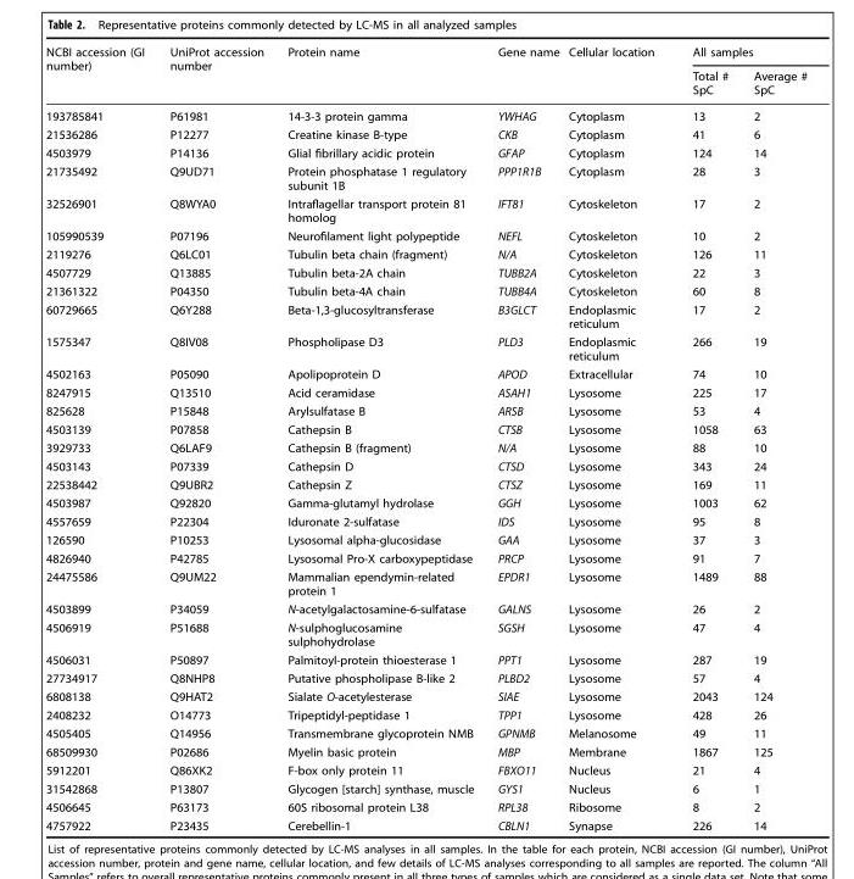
<table><thead><tr><td rowspan="2">NCBI accession (GI number)</td><td rowspan="2">UniProt accession number</td><td rowspan="2">Protein name</td><td rowspan="2">Gene name</td><td rowspan="2">Cellular location</td><td colspan="2">All samples</td></tr><tr><td>Total # SpC</td><td>Average # SpC</td></tr></thead><tbody><tr><td>193785841</td><td>P61981</td><td>14-3-3 protein gamma</td><td>YWHAG</td><td>Cytoplasm</td><td>13</td><td>2</td></tr><tr><td>21536286</td><td>P12277</td><td>Creatine kinase B-type</td><td>CKB</td><td>Cytoplasm</td><td>41</td><td>6</td></tr><tr><td>4503979</td><td>P14136</td><td>Glial fibrillary acidic protein</td><td>GFAP</td><td>Cytoplasm</td><td>124</td><td>14</td></tr><tr><td>21735492</td><td>Q9UD71</td><td>Protein phosphatase 1 regulatory subunit 1B</td><td>PPP1R1B</td><td>Cytoplasm</td><td>28</td><td>3</td></tr><tr><td>32526901</td><td>Q8WYA0</td><td>Intraflagellar transport protein 81 homolog</td><td>IFT81</td><td>Cytoskeleton</td><td>17</td><td>2</td></tr><tr><td>105990539</td><td>P07196</td><td>Neurofilament light polypeptide</td><td>NEFL</td><td>Cytoskeleton</td><td>10</td><td>2</td></tr><tr><td>2119276</td><td>Q6LC01</td><td>Tubulin beta chain (fragment)</td><td>N/A</td><td>Cytoskeleton</td><td>126</td><td>11</td></tr><tr><td>4507729</td><td>Q13885</td><td>Tubulin beta-2A chain</td><td>TUBB2A</td><td>Cytoskeleton</td><td>22</td><td>3</td></tr><tr><td>21361322</td><td>P04350</td><td>Tubulin beta-4A chain</td><td>TUBB4A</td><td>Cytoskeleton</td><td>60</td><td>8</td></tr><tr><td>60729665</td><td>Q6Y288</td><td>Beta-1,3-glucosyltransferase</td><td>B3GLCT</td><td>Endoplasmic reticulum</td><td>17</td><td>2</td></tr><tr><td>1575347</td><td>Q8IV08</td><td>Phospholipase D3</td><td>PLD3</td><td>Endoplasmic reticulum</td><td>266</td><td>19</td></tr><tr><td>4502163</td><td>P05090</td><td>Apolipoprotein D</td><td>APOD</td><td>Extracellular</td><td>74</td><td>10</td></tr><tr><td>8247915</td><td>Q13510</td><td>Acid ceramidase</td><td>ASAH1</td><td>Lysosome</td><td>225</td><td>17</td></tr><tr><td>825628</td><td>P15848</td><td>Arylsulfatase B</td><td>ARSB</td><td>Lysosome</td><td>53</td><td>4</td></tr><tr><td>4503139</td><td>P07858</td><td>Cathepsin B</td><td>CTSB</td><td>Lysosome</td><td>1058</td><td>63</td></tr><tr><td>3929733</td><td>Q6LAF9</td><td>Cathepsin B (fragment)</td><td>N/A</td><td>Lysosome</td><td>88</td><td>10</td></tr><tr><td>4503143</td><td>P07339</td><td>Cathepsin D</td><td>CTSD</td><td>Lysosome</td><td>343</td><td>24</td></tr><tr><td>22538442</td><td>Q9UBR2</td><td>Cathepsin Z</td><td>CTSZ</td><td>Lysosome</td><td>169</td><td>11</td></tr><tr><td>4503987</td><td>Q92820</td><td>Gamma-glutamyl hydrolase</td><td>GGH</td><td>Lysosome</td><td>1003</td><td>62</td></tr><tr><td>4557659</td><td>P22304</td><td>Iduronate 2-sulfatase</td><td>IDS</td><td>Lysosome</td><td>95</td><td>8</td></tr><tr><td>126590</td><td>P10253</td><td>Lysosomal alpha-glucosidase</td><td>GAA</td><td>Lysosome</td><td>37</td><td>3</td></tr><tr><td>4826940</td><td>P42785</td><td>Lysosomal Pro-X carboxypeptidase</td><td>PRCP</td><td>Lysosome</td><td>91</td><td>7</td></tr><tr><td>24475586</td><td>Q9UM22</td><td>Mammalian ependymin-related protein 1</td><td>EPDR1</td><td>Lysosome</td><td>1489</td><td>88</td></tr><tr><td>4503899</td><td>P34059</td><td>N-acetylgalactosamine-6-sulfatase</td><td>GALNS</td><td>Lysosome</td><td>26</td><td>2</td></tr><tr><td>4506919</td><td>P51688</td><td>N-sulphoglucosamine sulphohydrolase</td><td>SGSH</td><td>Lysosome</td><td>47</td><td>4</td></tr><tr><td>4506031</td><td>P50897</td><td>Palmitoyl-protein thioesterase 1</td><td>PPT1</td><td>Lysosome</td><td>287</td><td>19</td></tr><tr><td>27734917</td><td>Q8NHP8</td><td>Putative phospholipase B-like 2</td><td>PLBD2</td><td>Lysosome</td><td>57</td><td>4</td></tr><tr><td>6808138</td><td>Q9HAT2</td><td>Sialate O-acetylesterase</td><td>SIAE</td><td>Lysosome</td><td>2043</td><td>124</td></tr><tr><td>2408232</td><td>O14773</td><td>Tripeptidyl-peptidase 1</td><td>TPP1</td><td>Lysosome</td><td>428</td><td>26</td></tr><tr><td>4505405</td><td>Q14956</td><td>Transmembrane glycoprotein NMB</td><td>GPNMB</td><td>Melanosome</td><td>49</td><td>11</td></tr><tr><td>68509930</td><td>P02686</td><td>Myelin basic protein</td><td>MBP</td><td>Membrane</td><td>1867</td><td>125</td></tr><tr><td>5912201</td><td>Q86XK2</td><td>F-box only protein 11</td><td>FBXO11</td><td>Nucleus</td><td>21</td><td>4</td></tr><tr><td>31542868</td><td>P13807</td><td>Glycogen [starch] synthase, muscle</td><td>GYS1</td><td>Nucleus</td><td>6</td><td>1</td></tr><tr><td>4506645</td><td>P63173</td><td>60S ribosomal protein L38</td><td>RPL38</td><td>Ribosome</td><td>8</td><td>2</td></tr><tr><td>4757922</td><td>P23435</td><td>Cerebellin-1</td><td>CBLN1</td><td>Synapse</td><td>226</td><td>14</td></tr></tbody></table>